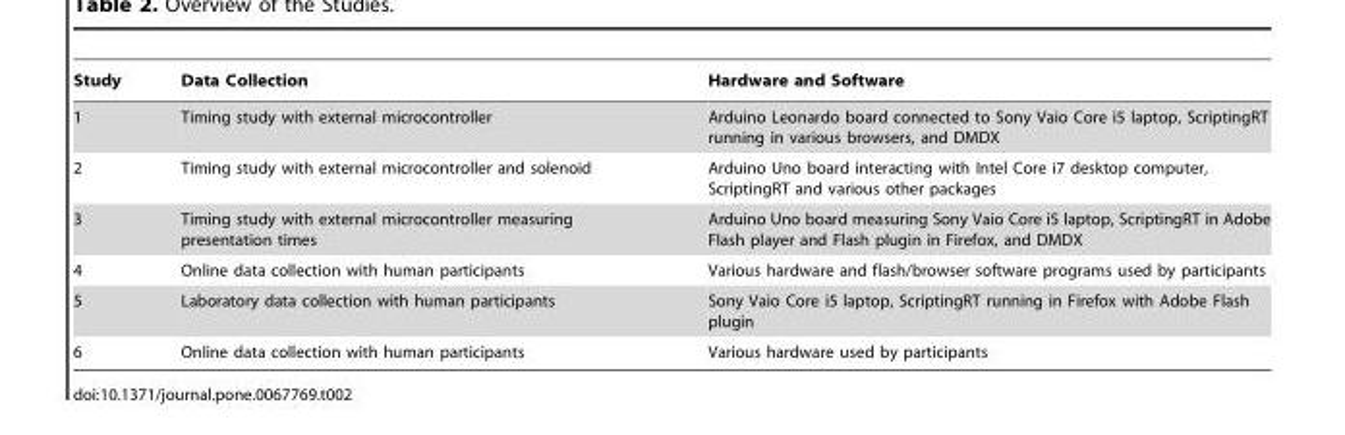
<table><thead><tr><td>Study</td><td>Data Collection</td><td>Hardware and Software</td></tr></thead><tbody><tr><td>1</td><td>Timing study with external microcontroller</td><td>Arduino Leonardo board connected to Sony Vaio Core i5 laptop, ScriptingRT running in various browsers, and DMDX</td></tr><tr><td>2</td><td>Timing study with external microcontroller and solenoid</td><td>Arduino Uno board interacting with Intel Core i7 desktop computer, ScriptingRT and various other packages</td></tr><tr><td>3</td><td>Timing study with external microcontroller measuring presentation times</td><td>Arduino Uno board measuring Sony Vaio Core i5 laptop, ScriptingRT in Adobe Flash player and Flash plugin in Firefox, and DMDX</td></tr><tr><td>4</td><td>Online data collection with human participants</td><td>Various hardware and flash/browser software programs used by participants</td></tr><tr><td>5</td><td>Laboratory data collection with human participants</td><td>Sony Vaio Core i5 laptop, ScriptingRT running in Firefox with Adobe Flash plugin</td></tr><tr><td>6</td><td>Online data collection with human participants</td><td>Various hardware used by participants</td></tr></tbody></table>